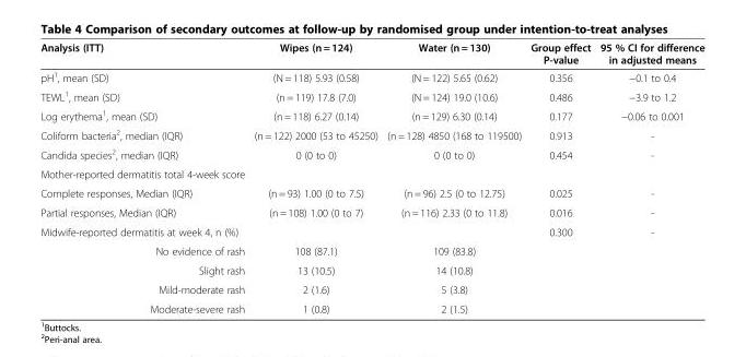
<table><thead><tr><td>Analysis (ITT)</td><td>Wipes (n = 124)</td><td>Water (n = 130)</td><td>Group effect P-value</td><td>95 % CI for difference in adjusted means</td></tr></thead><tbody><tr><td>pH<sup>1</sup>, mean (SD)</td><td>(N = 118) 5.93 (0.58)</td><td>(N = 122) 5.65 (0.62)</td><td>0.356</td><td>−0.1 to 0.4</td></tr><tr><td>TEWL<sup>1</sup>, mean (SD)</td><td>(n = 119) 17.8 (7.0)</td><td>(N = 124) 19.0 (10.6)</td><td>0.486</td><td>−3.9 to 1.2</td></tr><tr><td>Log erythema<sup>1</sup>, mean (SD)</td><td>(n = 118) 6.27 (0.14)</td><td>(n = 129) 6.30 (0.14)</td><td>0.177</td><td>−0.06 to 0.001</td></tr><tr><td>Coliform bacteria<sup>2</sup>, median (IQR)</td><td>(n = 122) 2000 (53 to 45250)</td><td>(n = 128) 4850 (168 to 119500)</td><td>0.913</td><td>-</td></tr><tr><td>Candida species<sup>2</sup>, median (IQR)</td><td>0 (0 to 0)</td><td>0 (0 to 0)</td><td>0.454</td><td>-</td></tr><tr><td colspan="5">Mother-reported dermatitis total 4-week score</td></tr><tr><td>Complete responses, Median (IQR)</td><td>(n = 93) 1.00 (0 to 7.5)</td><td>(n = 96) 2.5 (0 to 12.75)</td><td>0.025</td><td>-</td></tr><tr><td>Partial responses, Median (IQR)</td><td>(n = 108) 1.00 (0 to 7)</td><td>(n = 116) 2.33 (0 to 11.8)</td><td>0.016</td><td>-</td></tr><tr><td>Midwife-reported dermatitis at week 4, n (%)</td><td></td><td></td><td>0.300</td><td>-</td></tr><tr><td>No evidence of rash</td><td>108 (87.1)</td><td>109 (83.8)</td><td></td><td></td></tr><tr><td>Slight rash</td><td>13 (10.5)</td><td>14 (10.8)</td><td></td><td></td></tr><tr><td>Mild-moderate rash</td><td>2 (1.6)</td><td>5 (3.8)</td><td></td><td></td></tr><tr><td>Moderate-severe rash</td><td>1 (0.8)</td><td>2 (1.5)</td><td></td><td></td></tr></tbody></table>